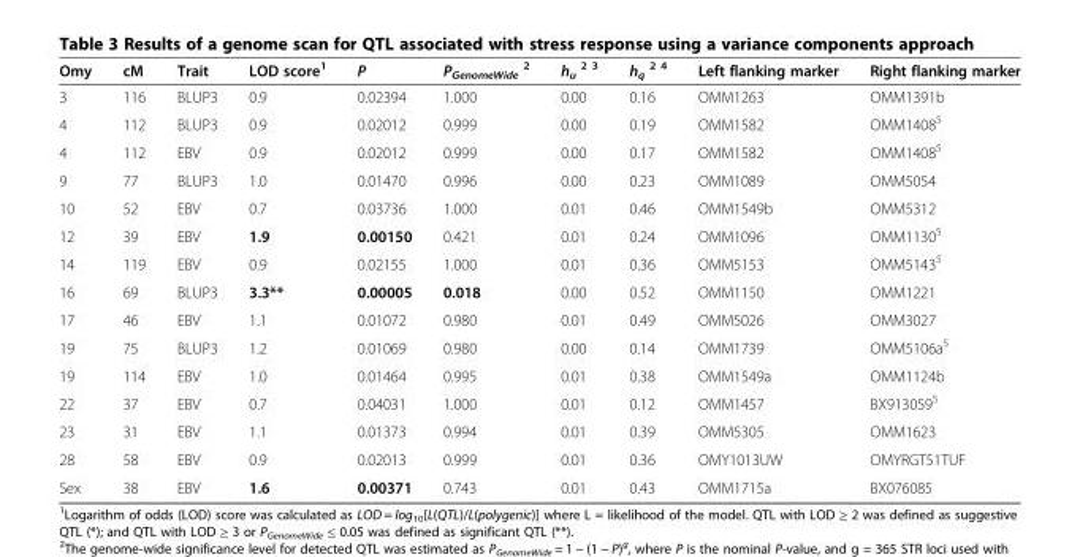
<table><thead><tr><td>Omy</td><td>cM</td><td>Trait</td><td>LOD score<sup>1</sup></td><td>P</td><td>P<sub>GenomeWide</sub> <sup>2</sup></td><td>h<sub>u</sub> <sup>2 3</sup></td><td>h<sub>q</sub> <sup>2 4</sup></td><td>Left flanking marker</td><td>Right flanking marker</td></tr></thead><tbody><tr><td>3</td><td>116</td><td>BLUP3</td><td>0.9</td><td>0.02394</td><td>1.000</td><td>0.00</td><td>0.16</td><td>OMM1263</td><td>OMM1391b</td></tr><tr><td>4</td><td>112</td><td>BLUP3</td><td>0.9</td><td>0.02012</td><td>0.999</td><td>0.00</td><td>0.19</td><td>OMM1582</td><td>OMM1408<sup>5</sup></td></tr><tr><td>4</td><td>112</td><td>EBV</td><td>0.9</td><td>0.02012</td><td>0.999</td><td>0.00</td><td>0.17</td><td>OMM1582</td><td>OMM1408<sup>5</sup></td></tr><tr><td>9</td><td>77</td><td>BLUP3</td><td>1.0</td><td>0.01470</td><td>0.996</td><td>0.00</td><td>0.23</td><td>OMM1089</td><td>OMM5054</td></tr><tr><td>10</td><td>52</td><td>EBV</td><td>0.7</td><td>0.03736</td><td>1.000</td><td>0.01</td><td>0.46</td><td>OMM1549b</td><td>OMM5312</td></tr><tr><td>12</td><td>39</td><td>EBV</td><td>1.9</td><td>0.00150</td><td>0.421</td><td>0.01</td><td>0.24</td><td>OMM1096</td><td>OMM1130<sup>5</sup></td></tr><tr><td>14</td><td>119</td><td>EBV</td><td>0.9</td><td>0.02155</td><td>1.000</td><td>0.01</td><td>0.36</td><td>OMM5153</td><td>OMM5143<sup>5</sup></td></tr><tr><td>16</td><td>69</td><td>BLUP3</td><td>3.3**</td><td>0.00005</td><td>0.018</td><td>0.00</td><td>0.52</td><td>OMM1150</td><td>OMM1221</td></tr><tr><td>17</td><td>46</td><td>EBV</td><td>1.1</td><td>0.01072</td><td>0.980</td><td>0.01</td><td>0.49</td><td>OMM5026</td><td>OMM3027</td></tr><tr><td>19</td><td>75</td><td>BLUP3</td><td>1.2</td><td>0.01069</td><td>0.980</td><td>0.00</td><td>0.14</td><td>OMM1739</td><td>OMM5106a<sup>5</sup></td></tr><tr><td>19</td><td>114</td><td>EBV</td><td>1.0</td><td>0.01464</td><td>0.995</td><td>0.01</td><td>0.38</td><td>OMM1549a</td><td>OMM1124b</td></tr><tr><td>22</td><td>37</td><td>EBV</td><td>0.7</td><td>0.04031</td><td>1.000</td><td>0.01</td><td>0.12</td><td>OMM1457</td><td>BX913059<sup>5</sup></td></tr><tr><td>23</td><td>31</td><td>EBV</td><td>1.1</td><td>0.01373</td><td>0.994</td><td>0.01</td><td>0.39</td><td>OMM5305</td><td>OMM1623</td></tr><tr><td>28</td><td>58</td><td>EBV</td><td>0.9</td><td>0.02013</td><td>0.999</td><td>0.01</td><td>0.36</td><td>OMY1013UW</td><td>OMYRGT51TUF</td></tr><tr><td>Sex</td><td>38</td><td>EBV</td><td>1.6</td><td>0.00371</td><td>0.743</td><td>0.01</td><td>0.43</td><td>OMM1715a</td><td>BX076085</td></tr></tbody></table>